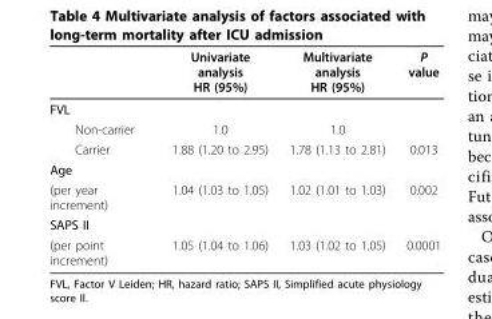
<table><thead><tr><td></td><td>Univariate analysis HR (95%)</td><td>Multivariate analysis HR (95%)</td><td>P value</td></tr></thead><tbody><tr><td colspan="4">FVL</td></tr><tr><td>Non-carrier</td><td>1.0</td><td>1.0</td><td></td></tr><tr><td>Carrier</td><td>1.88 (1.20 to 2.95)</td><td>1.78 (1.13 to 2.81)</td><td>0.013</td></tr><tr><td colspan="4">Age</td></tr><tr><td>(per year increment)</td><td>1.04 (1.03 to 1.05)</td><td>1.02 (1.01 to 1.03)</td><td>0.002</td></tr><tr><td colspan="4">SAPS II</td></tr><tr><td>(per point increment)</td><td>1.05 (1.04 to 1.06)</td><td>1.03 (1.02 to 1.05)</td><td>0.0001</td></tr></tbody></table>